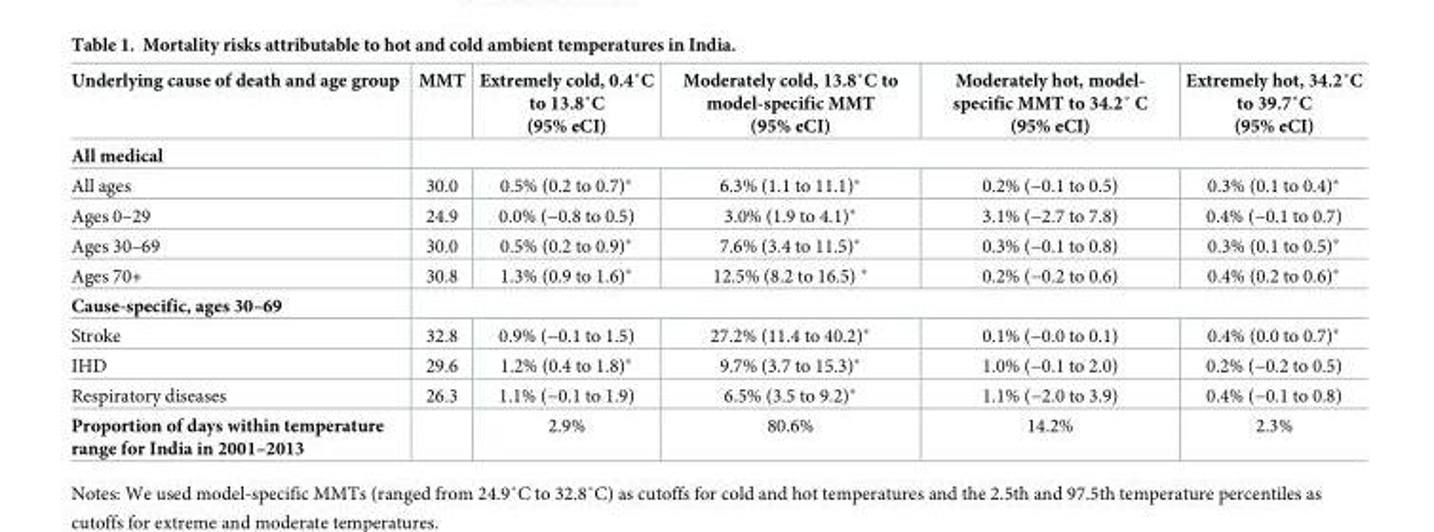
<table><thead><tr><td>Underlying cause of death and age group</td><td>MMT</td><td>Extremely cold, 0.4˚C to 13.8˚C (95% eCI)</td><td>Moderately cold, 13.8˚C to model-specific MMT (95% eCI)</td><td>Moderately hot, model- specific MMT to 34.2˚ C (95% eCI)</td><td>Extremely hot, 34.2˚C to 39.7˚C (95% eCI)</td></tr></thead><tbody><tr><td colspan="6">All medical</td></tr><tr><td>All ages</td><td>30.0</td><td>0.5% (0.2 to 0.7)*</td><td>6.3% (1.1 to 11.1)*</td><td>0.2% (−0.1 to 0.5)</td><td>0.3% (0.1 to 0.4)*</td></tr><tr><td>Ages 0–29</td><td>24.9</td><td>0.0% (−0.8 to 0.5)</td><td>3.0% (1.9 to 4.1)*</td><td>3.1% (−2.7 to 7.8)</td><td>0.4% (−0.1 to 0.7)</td></tr><tr><td>Ages 30–69</td><td>30.0</td><td>0.5% (0.2 to 0.9)*</td><td>7.6% (3.4 to 11.5)*</td><td>0.3% (−0.1 to 0.8)</td><td>0.3% (0.1 to 0.5)*</td></tr><tr><td>Ages 70+</td><td>30.8</td><td>1.3% (0.9 to 1.6)*</td><td>12.5% (8.2 to 16.5) *</td><td>0.2% (−0.2 to 0.6)</td><td>0.4% (0.2 to 0.6)*</td></tr><tr><td colspan="6">Cause-specific, ages 30–69</td></tr><tr><td>Stroke</td><td>32.8</td><td>0.9% (−0.1 to 1.5)</td><td>27.2% (11.4 to 40.2)*</td><td>0.1% (−0.0 to 0.1)</td><td>0.4% (0.0 to 0.7)*</td></tr><tr><td>IHD</td><td>29.6</td><td>1.2% (0.4 to 1.8)*</td><td>9.7% (3.7 to 15.3)*</td><td>1.0% (−0.1 to 2.0)</td><td>0.2% (−0.2 to 0.5)</td></tr><tr><td>Respiratory diseases</td><td>26.3</td><td>1.1% (−0.1 to 1.9)</td><td>6.5% (3.5 to 9.2)*</td><td>1.1% (−2.0 to 3.9)</td><td>0.4% (−0.1 to 0.8)</td></tr><tr><td>Proportion of days within temperature range for India in 2001–2013</td><td></td><td>2.9%</td><td>80.6%</td><td>14.2%</td><td>2.3%</td></tr></tbody></table>